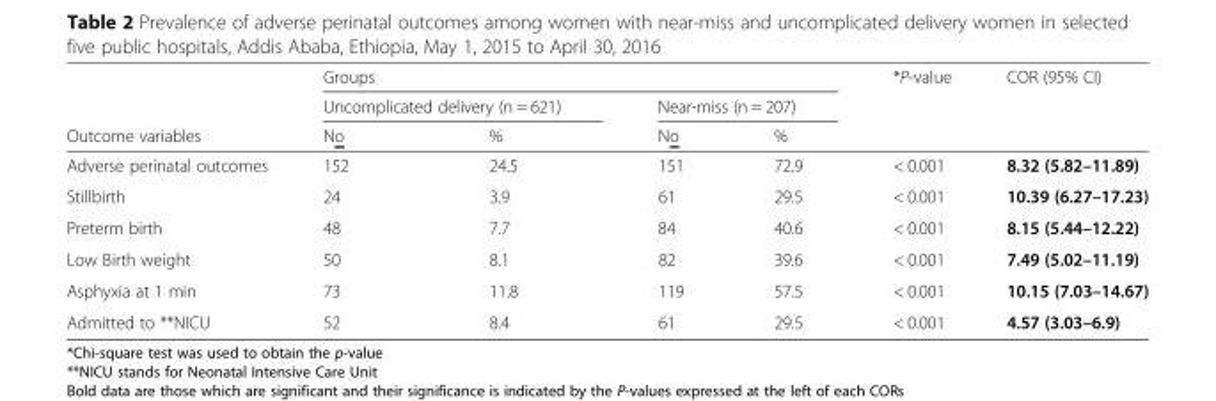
<table><thead><tr><td rowspan="3">Outcome variables</td><td colspan="4">Groups</td><td rowspan="3">*P-value</td><td rowspan="3">COR (95% CI)</td></tr><tr><td colspan="2">Uncomplicated delivery (n = 621)</td><td colspan="2">Near-miss (n = 207)</td></tr><tr><td>No</td><td>%</td><td>No</td><td>%</td></tr></thead><tbody><tr><td>Adverse perinatal outcomes</td><td>152</td><td>24.5</td><td>151</td><td>72.9</td><td>&lt; 0.001</td><td>8.32 (5.82–11.89)</td></tr><tr><td>Stillbirth</td><td>24</td><td>3.9</td><td>61</td><td>29.5</td><td>&lt; 0.001</td><td>10.39 (6.27–17.23)</td></tr><tr><td>Preterm birth</td><td>48</td><td>7.7</td><td>84</td><td>40.6</td><td>&lt; 0.001</td><td>8.15 (5.44–12.22)</td></tr><tr><td>Low Birth weight</td><td>50</td><td>8.1</td><td>82</td><td>39.6</td><td>&lt; 0.001</td><td>7.49 (5.02–11.19)</td></tr><tr><td>Asphyxia at 1 min</td><td>73</td><td>11.8</td><td>119</td><td>57.5</td><td>&lt; 0.001</td><td>10.15 (7.03–14.67)</td></tr><tr><td>Admitted to **NICU</td><td>52</td><td>8.4</td><td>61</td><td>29.5</td><td>&lt; 0.001</td><td>4.57 (3.03–6.9)</td></tr></tbody></table>